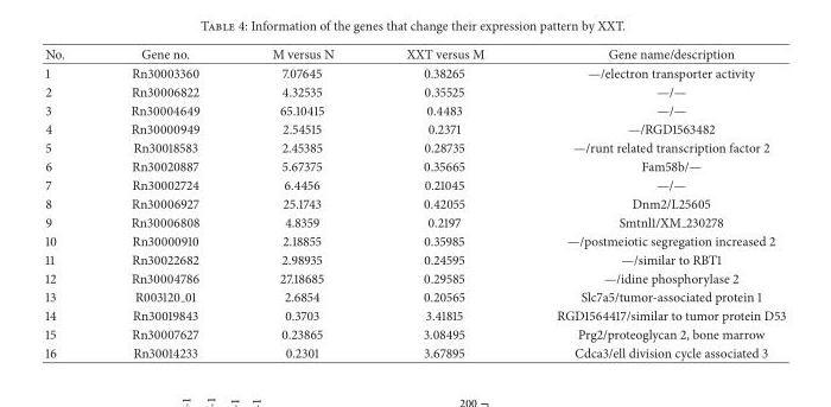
<table><thead><tr><td>No.</td><td>Gene no.</td><td>M versus N</td><td>XXT versus M</td><td>Gene name/description</td></tr></thead><tbody><tr><td>1</td><td>Rn30003360</td><td>7.07645</td><td>0.38265</td><td>—/electron transporter activity</td></tr><tr><td>2</td><td>Rn30006822</td><td>4.32535</td><td>0.35525</td><td>—/—</td></tr><tr><td>3</td><td>Rn30004649</td><td>65.10415</td><td>0.4483</td><td>—/—</td></tr><tr><td>4</td><td>Rn30000949</td><td>2.54515</td><td>0.2371</td><td>—/RGD1563482</td></tr><tr><td>5</td><td>Rn30018583</td><td>2.45385</td><td>0.28735</td><td>—/runt related transcription factor 2</td></tr><tr><td>6</td><td>Rn30020887</td><td>5.67375</td><td>0.35665</td><td>Fam58b/—</td></tr><tr><td>7</td><td>Rn30002724</td><td>6.4456</td><td>0.21045</td><td>—/—</td></tr><tr><td>8</td><td>Rn30006927</td><td>25.1743</td><td>0.42055</td><td>Dnm2/L25605</td></tr><tr><td>9</td><td>Rn30006808</td><td>4.8359</td><td>0.2197</td><td>Smtnl1/XM 230278</td></tr><tr><td>10</td><td>Rn30000910</td><td>2.18855</td><td>0.35985</td><td>—/postmeiotic segregation increased 2</td></tr><tr><td>11</td><td>Rn30022682</td><td>2.98935</td><td>0.24595</td><td>—/similar to RBT1</td></tr><tr><td>12</td><td>Rn30004786</td><td>27.18685</td><td>0.29585</td><td>—/idine phosphorylase 2</td></tr><tr><td>13</td><td>R003120 01</td><td>2.6854</td><td>0.20565</td><td>Slc7a5/tumor-associated protein 1</td></tr><tr><td>14</td><td>Rn30019843</td><td>0.3703</td><td>3.41815</td><td>RGD1564417/similar to tumor protein D53</td></tr><tr><td>15</td><td>Rn30007627</td><td>0.23865</td><td>3.08495</td><td>Prg2/proteoglycan 2, bone marrow</td></tr><tr><td>16</td><td>Rn30014233</td><td>0.2301</td><td>3.67895</td><td>Cdca3/ell division cycle associated 3</td></tr></tbody></table>